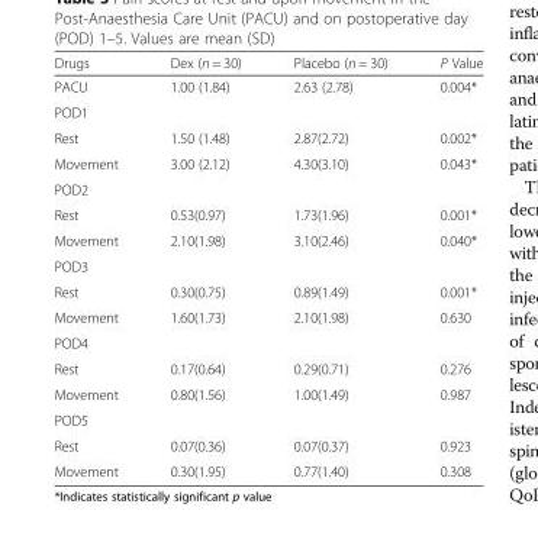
<table><thead><tr><td>Drugs</td><td>Dex (n = 30)</td><td>Placebo (n = 30)</td><td>P Value</td></tr></thead><tbody><tr><td>PACU</td><td>1.00 (1.84)</td><td>2.63 (2.78)</td><td>0.004*</td></tr><tr><td colspan="4">POD1</td></tr><tr><td>Rest</td><td>1.50 (1.48)</td><td>2.87(2.72)</td><td>0.002*</td></tr><tr><td>Movement</td><td>3.00 (2.12)</td><td>4.30(3.10)</td><td>0.043*</td></tr><tr><td colspan="4">POD2</td></tr><tr><td>Rest</td><td>0.53(0.97)</td><td>1.73(1.96)</td><td>0.001*</td></tr><tr><td>Movement</td><td>2.10(1.98)</td><td>3.10(2.46)</td><td>0.040*</td></tr><tr><td colspan="4">POD3</td></tr><tr><td>Rest</td><td>0.30(0.75)</td><td>0.89(1.49)</td><td>0.001*</td></tr><tr><td>Movement</td><td>1.60(1.73)</td><td>2.10(1.98)</td><td>0.630</td></tr><tr><td colspan="4">POD4</td></tr><tr><td>Rest</td><td>0.17(0.64)</td><td>0.29(0.71)</td><td>0.276</td></tr><tr><td>Movement</td><td>0.80(1.56)</td><td>1.00(1.49)</td><td>0.987</td></tr><tr><td colspan="4">POD5</td></tr><tr><td>Rest</td><td>0.07(0.36)</td><td>0.07(0.37)</td><td>0.923</td></tr><tr><td>Movement</td><td>0.30(1.95)</td><td>0.77(1.40)</td><td>0.308</td></tr></tbody></table>